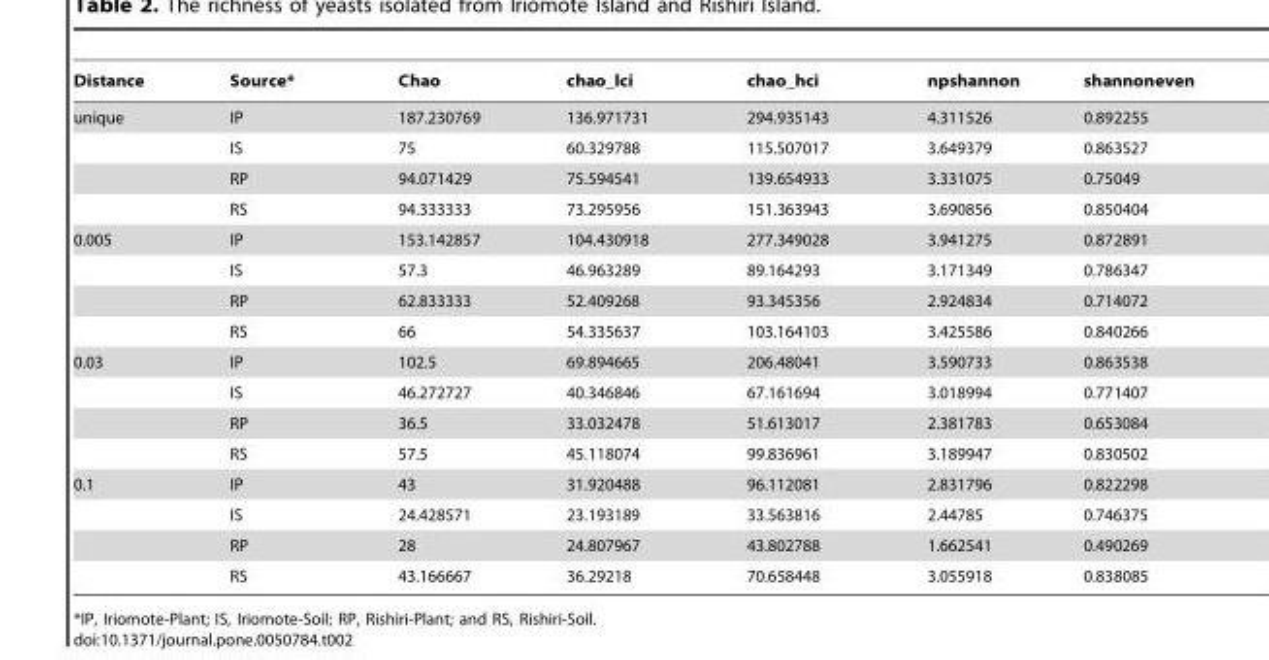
<table><thead><tr><td>Distance</td><td>Source*</td><td>Chao</td><td>chao_lci</td><td>chao_hci</td><td>npshannon</td><td>shannoneven</td></tr></thead><tbody><tr><td rowspan="4">unique</td><td>IP</td><td>187.230769</td><td>136.971731</td><td>294.935143</td><td>4.311526</td><td>0.892255</td></tr><tr><td>IS</td><td>75</td><td>60.329788</td><td>115.507017</td><td>3.649379</td><td>0.863527</td></tr><tr><td>RP</td><td>94.071429</td><td>75.594541</td><td>139.654933</td><td>3.331075</td><td>0.75049</td></tr><tr><td>RS</td><td>94.333333</td><td>73.295956</td><td>151.363943</td><td>3.690856</td><td>0.850404</td></tr><tr><td rowspan="4">0.005</td><td>IP</td><td>153.142857</td><td>104.430918</td><td>277.349028</td><td>3.941275</td><td>0.872891</td></tr><tr><td>IS</td><td>57.3</td><td>46.963289</td><td>89.164293</td><td>3.171349</td><td>0.786347</td></tr><tr><td>RP</td><td>62.833333</td><td>52.409268</td><td>93.345356</td><td>2.924834</td><td>0.714072</td></tr><tr><td>RS</td><td>66</td><td>54.335637</td><td>103.164103</td><td>3.425586</td><td>0.840266</td></tr><tr><td rowspan="4">0.03</td><td>IP</td><td>102.5</td><td>69.894665</td><td>206.48041</td><td>3.590733</td><td>0.863538</td></tr><tr><td>IS</td><td>46.272727</td><td>40.346846</td><td>67.161694</td><td>3.018994</td><td>0.771407</td></tr><tr><td>RP</td><td>36.5</td><td>33.032478</td><td>51.613017</td><td>2.381783</td><td>0.653084</td></tr><tr><td>RS</td><td>57.5</td><td>45.118074</td><td>99.836961</td><td>3.189947</td><td>0.830502</td></tr><tr><td rowspan="4">0.1</td><td>IP</td><td>43</td><td>31.920488</td><td>96.112081</td><td>2.831796</td><td>0.822298</td></tr><tr><td>IS</td><td>24.428571</td><td>23.193189</td><td>33.563816</td><td>2.44785</td><td>0.746375</td></tr><tr><td>RP</td><td>28</td><td>24.807967</td><td>43.802788</td><td>1.662541</td><td>0.490269</td></tr><tr><td>RS</td><td>43.166667</td><td>36.29218</td><td>70.658448</td><td>3.055918</td><td>0.838085</td></tr></tbody></table>